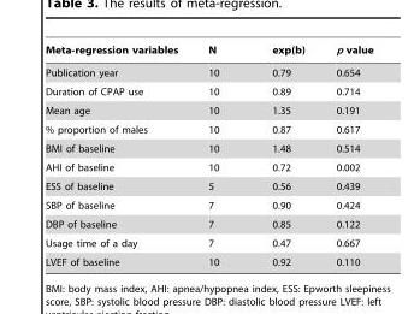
<table><thead><tr><td>Meta-regression variables</td><td>N</td><td>exp(b)</td><td>p value</td></tr></thead><tbody><tr><td>Publication year</td><td>10</td><td>0.79</td><td>0.654</td></tr><tr><td>Duration of CPAP use</td><td>10</td><td>0.89</td><td>0.714</td></tr><tr><td>Mean age</td><td>10</td><td>1.35</td><td>0.191</td></tr><tr><td>% proportion of males</td><td>10</td><td>0.87</td><td>0.617</td></tr><tr><td>BMI of baseline</td><td>10</td><td>1.48</td><td>0.514</td></tr><tr><td>AHI of baseline</td><td>10</td><td>0.72</td><td>0.002</td></tr><tr><td>ESS of baseline</td><td>5</td><td>0.56</td><td>0.439</td></tr><tr><td>SBP of baseline</td><td>7</td><td>0.90</td><td>0.424</td></tr><tr><td>DBP of baseline</td><td>7</td><td>0.85</td><td>0.122</td></tr><tr><td>Usage time of a day</td><td>7</td><td>0.47</td><td>0.667</td></tr><tr><td>LVEF of baseline</td><td>10</td><td>0.92</td><td>0.110</td></tr></tbody></table>